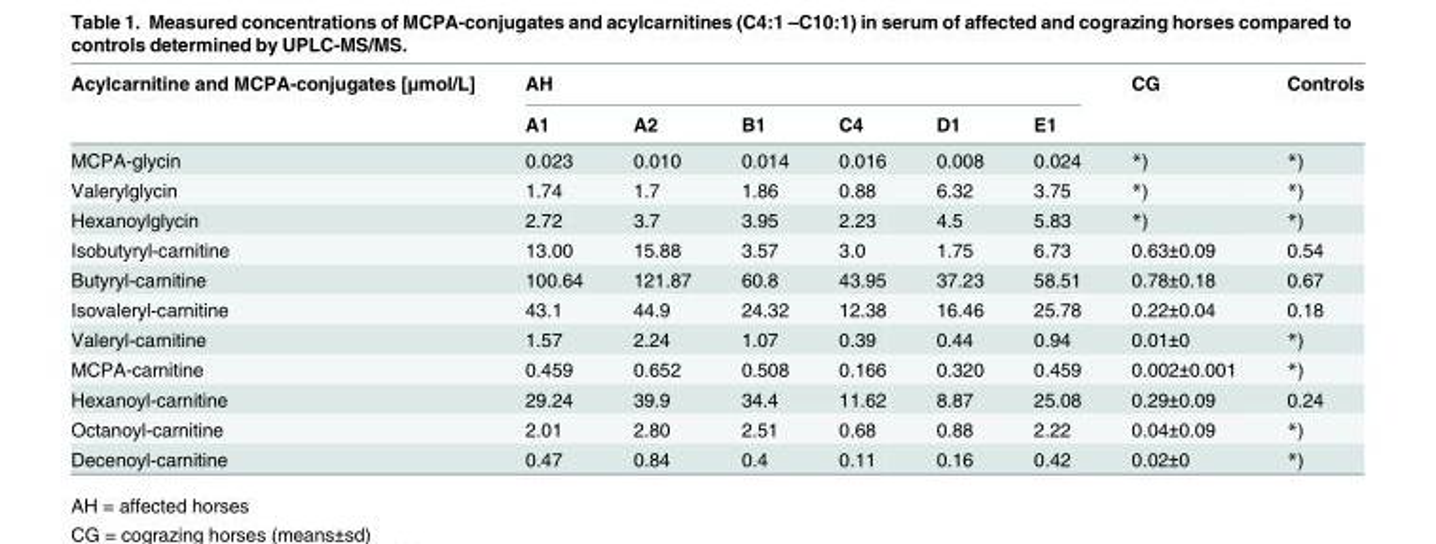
<table><thead><tr><td rowspan="2">Acylcarnitine and MCPA-conjugates [μmol/L]</td><td colspan="6">AH</td><td rowspan="2">CG</td><td rowspan="2">Controls</td></tr><tr><td>A1</td><td>A2</td><td>B1</td><td>C4</td><td>D1</td><td>E1</td></tr></thead><tbody><tr><td>MCPA-glycin</td><td>0.023</td><td>0.010</td><td>0.014</td><td>0.016</td><td>0.008</td><td>0.024</td><td>*)</td><td>*)</td></tr><tr><td>Valerylglycin</td><td>1.74</td><td>1.7</td><td>1.86</td><td>0.88</td><td>6.32</td><td>3.75</td><td>*)</td><td>*)</td></tr><tr><td>Hexanoylglycin</td><td>2.72</td><td>3.7</td><td>3.95</td><td>2.23</td><td>4.5</td><td>5.83</td><td>*)</td><td>*)</td></tr><tr><td>Isobutyryl-carnitine</td><td>13.00</td><td>15.88</td><td>3.57</td><td>3.0</td><td>1.75</td><td>6.73</td><td>0.63±0.09</td><td>0.54</td></tr><tr><td>Butyryl-carnitine</td><td>100.64</td><td>121.87</td><td>60.8</td><td>43.95</td><td>37.23</td><td>58.51</td><td>0.78±0.18</td><td>0.67</td></tr><tr><td>Isovaleryl-carnitine</td><td>43.1</td><td>44.9</td><td>24.32</td><td>12.38</td><td>16.46</td><td>25.78</td><td>0.22±0.04</td><td>0.18</td></tr><tr><td>Valeryl-carnitine</td><td>1.57</td><td>2.24</td><td>1.07</td><td>0.39</td><td>0.44</td><td>0.94</td><td>0.01±0</td><td>*)</td></tr><tr><td>MCPA-carnitine</td><td>0.459</td><td>0.652</td><td>0.508</td><td>0.166</td><td>0.320</td><td>0.459</td><td>0.002±0.001</td><td>*)</td></tr><tr><td>Hexanoyl-carnitine</td><td>29.24</td><td>39.9</td><td>34.4</td><td>11.62</td><td>8.87</td><td>25.08</td><td>0.29±0.09</td><td>0.24</td></tr><tr><td>Octanoyl-carnitine</td><td>2.01</td><td>2.80</td><td>2.51</td><td>0.68</td><td>0.88</td><td>2.22</td><td>0.04±0.09</td><td>*)</td></tr><tr><td>Decenoyl-carnitine</td><td>0.47</td><td>0.84</td><td>0.4</td><td>0.11</td><td>0.16</td><td>0.42</td><td>0.02±0</td><td>*)</td></tr></tbody></table>